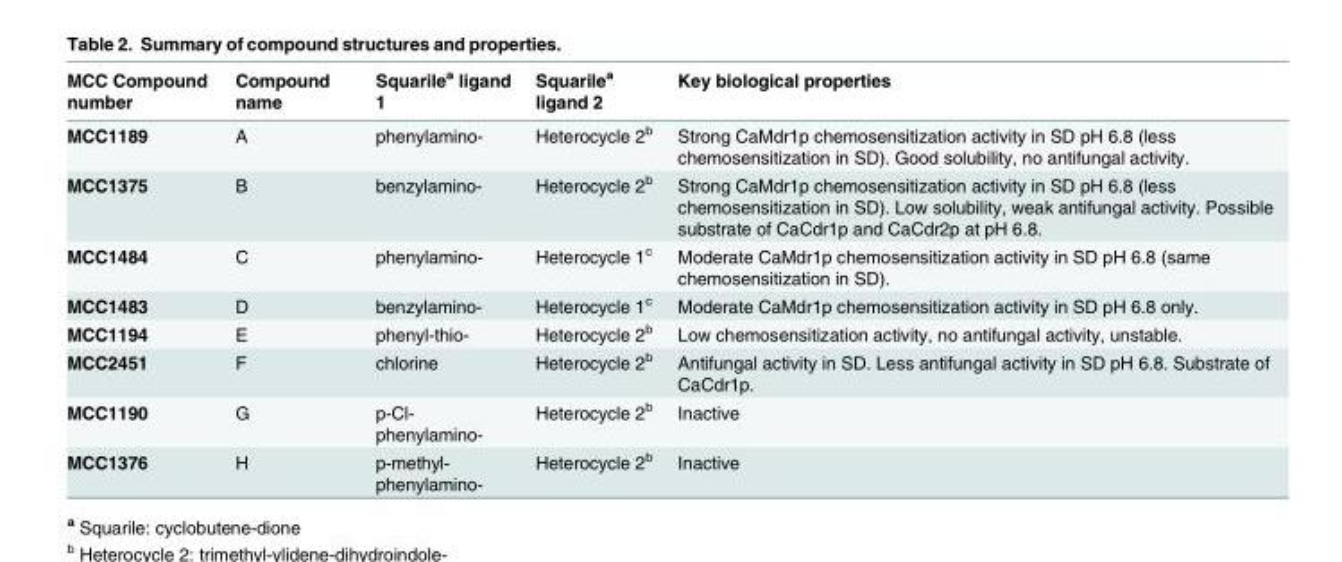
<table><thead><tr><td>MCC Compound number</td><td>Compound name</td><td>Squarile<sup>a</sup> ligand 1</td><td>Squarile<sup>a</sup> ligand 2</td><td>Key biological properties</td></tr></thead><tbody><tr><td>MCC1189</td><td>A</td><td>phenylamino-</td><td>Heterocycle 2<sup>b</sup></td><td>Strong CaMdr1p chemosensitization activity in SD pH 6.8 (less chemosensitization in SD). Good solubility, no antifungal activity.</td></tr><tr><td>MCC1375</td><td>B</td><td>benzylamino-</td><td>Heterocycle 2<sup>b</sup></td><td>Strong CaMdr1p chemosensitization activity in SD pH 6.8 (less chemosensitization in SD). Low solubility, weak antifungal activity. Possible substrate of CaCdr1p and CaCdr2p at pH 6.8.</td></tr><tr><td>MCC1484</td><td>C</td><td>phenylamino-</td><td>Heterocycle 1<sup>c</sup></td><td>Moderate CaMdr1p chemosensitization activity in SD pH 6.8 (same chemosensitization in SD).</td></tr><tr><td>MCC1483</td><td>D</td><td>benzylamino-</td><td>Heterocycle 1<sup>c</sup></td><td>Moderate CaMdr1p chemosensitization activity in SD pH 6.8 only.</td></tr><tr><td>MCC1194</td><td>E</td><td>phenyl-thio-</td><td>Heterocycle 2<sup>b</sup></td><td>Low chemosensitization activity, no antifungal activity, unstable.</td></tr><tr><td>MCC2451</td><td>F</td><td>chlorine</td><td>Heterocycle 2<sup>b</sup></td><td>Antifungal activity in SD. Less antifungal activity in SD pH 6.8. Substrate of CaCdr1p.</td></tr><tr><td>MCC1190</td><td>G</td><td>p-Cl- phenylamino-</td><td>Heterocycle 2<sup>b</sup></td><td>Inactive</td></tr><tr><td>MCC1376</td><td>H</td><td>p-methyl- phenylamino-</td><td>Heterocycle 2<sup>b</sup></td><td>Inactive</td></tr></tbody></table>